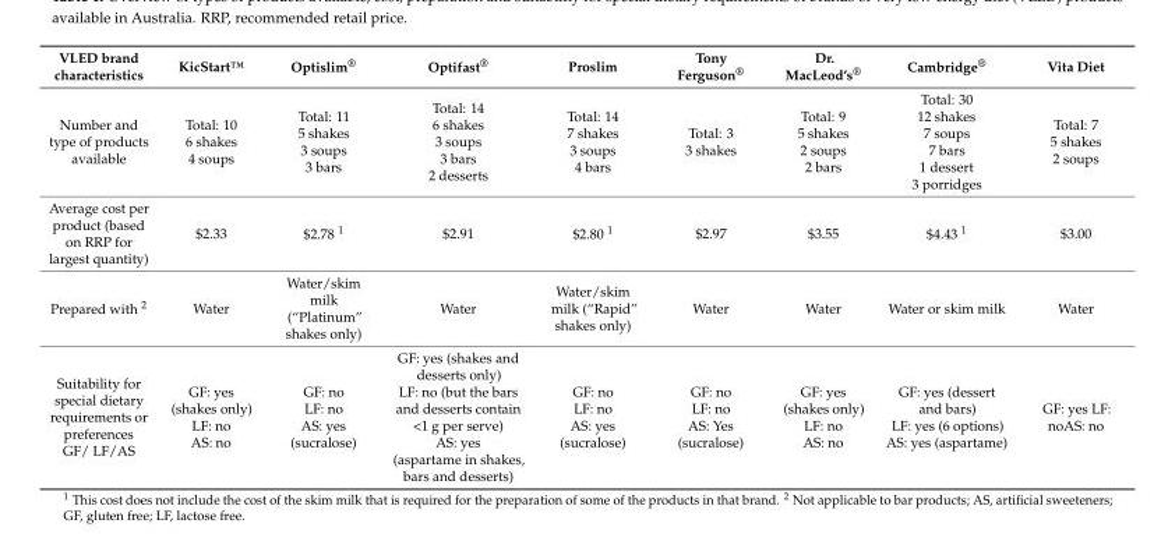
<table><thead><tr><td>VLED brand characteristics</td><td>KicStart™</td><td>Optislim<sup>®</sup></td><td>Optifast<sup>®</sup></td><td>Proslim</td><td>Tony Ferguson<sup>®</sup></td><td>Dr. MacLeod’s<sup>®</sup></td><td>Cambridge<sup>®</sup></td><td>Vita Diet</td></tr></thead><tbody><tr><td>Number and type of products available</td><td>Total: 10 6 shakes 4 soups</td><td>Total: 11 5 shakes 3 soups 3 bars</td><td>Total: 14 6 shakes 3 soups 3 bars 2 desserts</td><td>Total: 14 7 shakes 3 soups 4 bars</td><td>Total: 3 3 shakes</td><td>Total: 9 5 shakes 2 soups 2 bars</td><td>Total: 30 12 shakes 7 soups 7 bars 1 dessert 3 porridges</td><td>Total: 7 5 shakes 2 soups</td></tr><tr><td>Average cost per product (based on RRP for largest quantity)</td><td>$2.33</td><td>$2.78 <sup>1</sup></td><td>$2.91</td><td>$2.80 <sup>1</sup></td><td>$2.97</td><td>$3.55</td><td>$4.43 <sup>1</sup></td><td>$3.00</td></tr><tr><td>Prepared with <sup>2</sup></td><td>Water</td><td>Water/skim milk (“Platinum” shakes only)</td><td>Water</td><td>Water/skim milk (“Rapid” shakes only)</td><td>Water</td><td>Water</td><td>Water or skim milk</td><td>Water</td></tr><tr><td>Suitability for special dietary requirements or preferences GF/ LF/AS</td><td>GF: yes (shakes only) LF: no AS: no</td><td>GF: no LF: no AS: yes (sucralose)</td><td>GF: yes (shakes and desserts only) LF: no (but the bars and desserts contain &lt;1 g per serve) AS: yes (aspartame in shakes, bars and desserts)</td><td>GF: no LF: no AS: yes (sucralose)</td><td>GF: no LF: no AS: Yes (sucralose)</td><td>GF: yes (shakes only) LF: no AS: no</td><td>GF: yes (dessert and bars) LF: yes (6 options) AS: yes (aspartame)</td><td>GF: yes LF: noAS: no</td></tr></tbody></table>